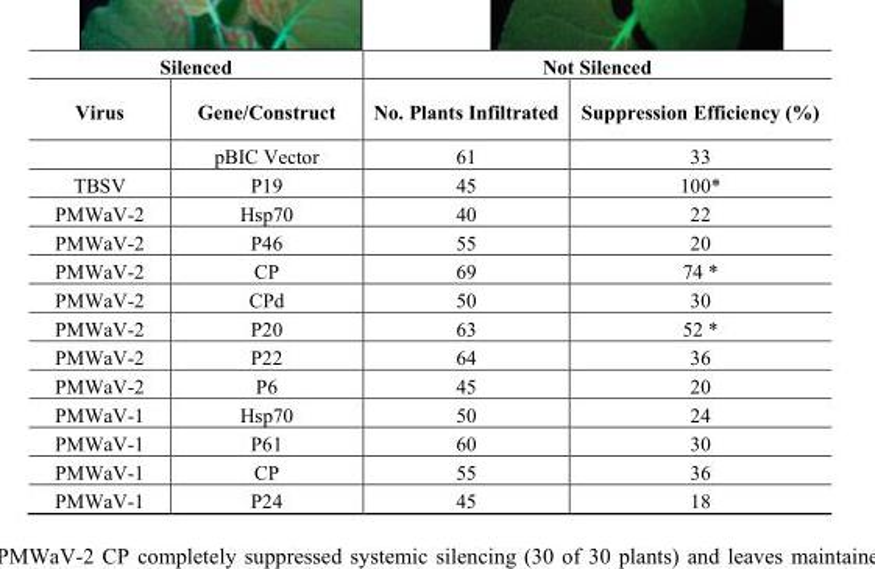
<table><thead><tr><td colspan="2">Silenced</td><td colspan="2">Not Silenced</td></tr><tr><td>Virus</td><td>Gene/Construct</td><td>No. Plants Infiltrated</td><td>Suppression Efficiency (%)</td></tr></thead><tbody><tr><td></td><td>pBIC Vector</td><td>61</td><td>33</td></tr><tr><td>TBSV</td><td>P19</td><td>45</td><td>100*</td></tr><tr><td>PMWaV-2</td><td>Hsp70</td><td>40</td><td>22</td></tr><tr><td>PMWaV-2</td><td>P46</td><td>55</td><td>20</td></tr><tr><td>PMWaV-2</td><td>CP</td><td>69</td><td>74 *</td></tr><tr><td>PMWaV-2</td><td>CPd</td><td>50</td><td>30</td></tr><tr><td>PMWaV-2</td><td>P20</td><td>63</td><td>52 *</td></tr><tr><td>PMWaV-2</td><td>P22</td><td>64</td><td>36</td></tr><tr><td>PMWaV-2</td><td>P6</td><td>45</td><td>20</td></tr><tr><td>PMWaV-1</td><td>Hsp70</td><td>50</td><td>24</td></tr><tr><td>PMWaV-1</td><td>P61</td><td>60</td><td>30</td></tr><tr><td>PMWaV-1</td><td>CP</td><td>55</td><td>36</td></tr><tr><td>PMWaV-1</td><td>P24</td><td>45</td><td>18</td></tr></tbody></table>